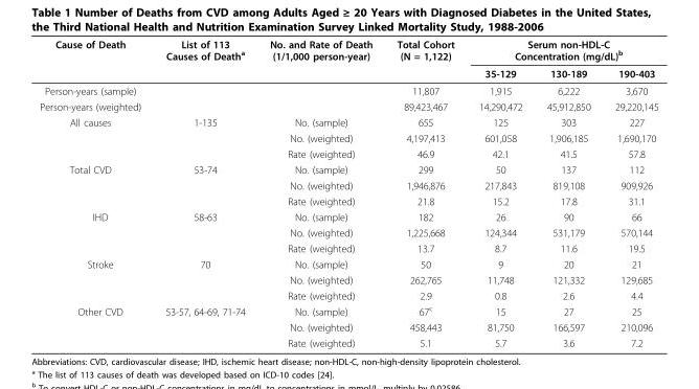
<table><thead><tr><td rowspan="2">Cause of Death</td><td rowspan="2">List of 113 Causes of Death<sup>a</sup></td><td rowspan="2">No. and Rate of Death (1/1,000 person-year)</td><td rowspan="2">Total Cohort (N = 1,122)</td><td colspan="3">Serum non-HDL-C Concentration (mg/dL)<sup>b</sup></td></tr><tr><td>35-129</td><td>130-189</td><td>190-403</td></tr></thead><tbody><tr><td>Person-years (sample)</td><td></td><td></td><td>11,807</td><td>1,915</td><td>6,222</td><td>3,670</td></tr><tr><td>Person-years (weighted)</td><td></td><td></td><td>89,423,467</td><td>14,290,472</td><td>45,912,850</td><td>29,220,145</td></tr><tr><td rowspan="3">All causes</td><td>1-135</td><td>No. (sample)</td><td>655</td><td>125</td><td>303</td><td>227</td></tr><tr><td></td><td>No. (weighted)</td><td>4,197,413</td><td>601,058</td><td>1,906,185</td><td>1,690,170</td></tr><tr><td></td><td>Rate (weighted)</td><td>46.9</td><td>42.1</td><td>41.5</td><td>57.8</td></tr><tr><td rowspan="3">Total CVD</td><td>53-74</td><td>No. (sample)</td><td>299</td><td>50</td><td>137</td><td>112</td></tr><tr><td></td><td>No. (weighted)</td><td>1,946,876</td><td>217,843</td><td>819,108</td><td>909,926</td></tr><tr><td></td><td>Rate (weighted)</td><td>21.8</td><td>15.2</td><td>17.8</td><td>31.1</td></tr><tr><td rowspan="3">IHD</td><td>58-63</td><td>No. (sample)</td><td>182</td><td>26</td><td>90</td><td>66</td></tr><tr><td></td><td>No. (weighted)</td><td>1,225,668</td><td>124,344</td><td>531,179</td><td>570,144</td></tr><tr><td></td><td>Rate (weighted)</td><td>13.7</td><td>8.7</td><td>11.6</td><td>19.5</td></tr><tr><td rowspan="3">Stroke</td><td>70</td><td>No. (sample)</td><td>50</td><td>9</td><td>20</td><td>21</td></tr><tr><td></td><td>No. (weighted)</td><td>262,765</td><td>11,748</td><td>121,332</td><td>129,685</td></tr><tr><td></td><td>Rate (weighted)</td><td>2.9</td><td>0.8</td><td>2.6</td><td>4.4</td></tr><tr><td rowspan="3">Other CVD</td><td>53-57, 64-69, 71-74</td><td>No. (sample)</td><td>67<sup>c</sup></td><td>15</td><td>27</td><td>25</td></tr><tr><td></td><td>No. (weighted)</td><td>458,443</td><td>81,750</td><td>166,597</td><td>210,096</td></tr><tr><td></td><td>Rate (weighted)</td><td>5.1</td><td>5.7</td><td>3.6</td><td>7.2</td></tr></tbody></table>